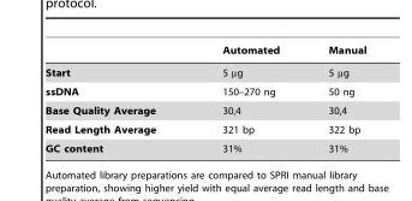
<table><thead><tr><td></td><td>Automated</td><td>Manual</td></tr></thead><tbody><tr><td>Start</td><td>5 µg</td><td>5 µg</td></tr><tr><td>ssDNA</td><td>150–270 ng</td><td>50 ng</td></tr><tr><td>Base Quality Average</td><td>30,4</td><td>30,4</td></tr><tr><td>Read Length Average</td><td>321 bp</td><td>322 bp</td></tr><tr><td>GC content</td><td>31%</td><td>31%</td></tr></tbody></table>